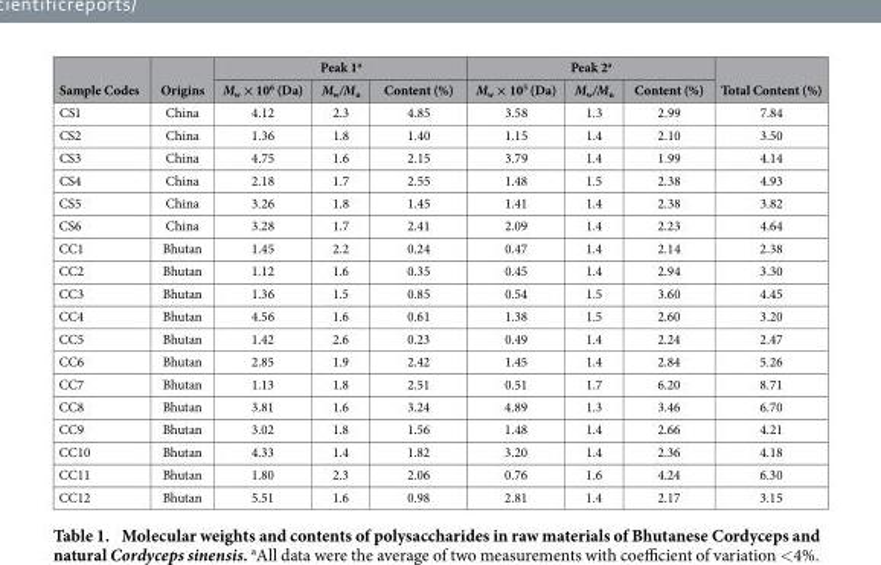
<table><thead><tr><td rowspan="2">Sample Codes</td><td rowspan="2">Origins</td><td colspan="3">Peak 1<sup>a</sup></td><td colspan="3">Peak 2<sup>a</sup></td><td rowspan="2">Total Content (%)</td></tr><tr><td>M<sub>w</sub> × 10<sup>6</sup> (Da)</td><td>M<sub>w</sub>/M<sub>n</sub></td><td>Content (%)</td><td>M<sub>w</sub> × 10<sup>5</sup> (Da)</td><td>M<sub>w</sub>/M<sub>n</sub></td><td>Content (%)</td></tr></thead><tbody><tr><td>CS1</td><td>China</td><td>4.12</td><td>2.3</td><td>4.85</td><td>3.58</td><td>1.3</td><td>2.99</td><td>7.84</td></tr><tr><td>CS2</td><td>China</td><td>1.36</td><td>1.8</td><td>1.40</td><td>1.15</td><td>1.4</td><td>2.10</td><td>3.50</td></tr><tr><td>CS3</td><td>China</td><td>4.75</td><td>1.6</td><td>2.15</td><td>3.79</td><td>1.4</td><td>1.99</td><td>4.14</td></tr><tr><td>CS4</td><td>China</td><td>2.18</td><td>1.7</td><td>2.55</td><td>1.48</td><td>1.5</td><td>2.38</td><td>4.93</td></tr><tr><td>CS5</td><td>China</td><td>3.26</td><td>1.8</td><td>1.45</td><td>1.41</td><td>1.4</td><td>2.38</td><td>3.82</td></tr><tr><td>CS6</td><td>China</td><td>3.28</td><td>1.7</td><td>2.41</td><td>2.09</td><td>1.4</td><td>2.23</td><td>4.64</td></tr><tr><td>CC1</td><td>Bhutan</td><td>1.45</td><td>2.2</td><td>0.24</td><td>0.47</td><td>1.4</td><td>2.14</td><td>2.38</td></tr><tr><td>CC2</td><td>Bhutan</td><td>1.12</td><td>1.6</td><td>0.35</td><td>0.45</td><td>1.4</td><td>2.94</td><td>3.30</td></tr><tr><td>CC3</td><td>Bhutan</td><td>1.36</td><td>1.5</td><td>0.85</td><td>0.54</td><td>1.5</td><td>3.60</td><td>4.45</td></tr><tr><td>CC4</td><td>Bhutan</td><td>4.56</td><td>1.6</td><td>0.61</td><td>1.38</td><td>1.5</td><td>2.60</td><td>3.20</td></tr><tr><td>CC5</td><td>Bhutan</td><td>1.42</td><td>2.6</td><td>0.23</td><td>0.49</td><td>1.4</td><td>2.24</td><td>2.47</td></tr><tr><td>CC6</td><td>Bhutan</td><td>2.85</td><td>1.9</td><td>2.42</td><td>1.45</td><td>1.4</td><td>2.84</td><td>5.26</td></tr><tr><td>CC7</td><td>Bhutan</td><td>1.13</td><td>1.8</td><td>2.51</td><td>0.51</td><td>1.7</td><td>6.20</td><td>8.71</td></tr><tr><td>CC8</td><td>Bhutan</td><td>3.81</td><td>1.6</td><td>3.24</td><td>4.89</td><td>1.3</td><td>3.46</td><td>6.70</td></tr><tr><td>CC9</td><td>Bhutan</td><td>3.02</td><td>1.8</td><td>1.56</td><td>1.48</td><td>1.4</td><td>2.66</td><td>4.21</td></tr><tr><td>CC10</td><td>Bhutan</td><td>4.33</td><td>1.4</td><td>1.82</td><td>3.20</td><td>1.4</td><td>2.36</td><td>4.18</td></tr><tr><td>CC11</td><td>Bhutan</td><td>1.80</td><td>2.3</td><td>2.06</td><td>0.76</td><td>1.6</td><td>4.24</td><td>6.30</td></tr><tr><td>CC12</td><td>Bhutan</td><td>5.51</td><td>1.6</td><td>0.98</td><td>2.81</td><td>1.4</td><td>2.17</td><td>3.15</td></tr></tbody></table>